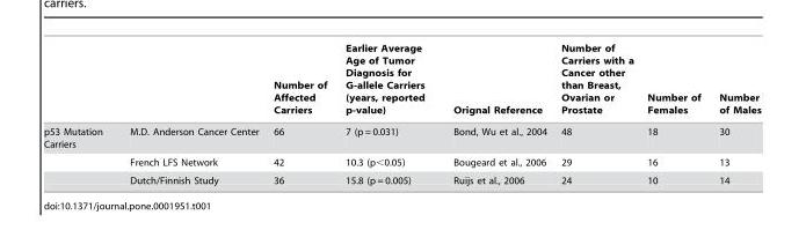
<table><thead><tr><td></td><td></td><td>Number of Affected Carriers</td><td>Earlier Average Age of Tumor Diagnosis for G-allele Carriers (years, reported p-value)</td><td>Orignal Reference</td><td>Number of Carriers with a Cancer other than Breast, Ovarian or Prostate</td><td>Number of Females</td><td>Number of Males</td></tr></thead><tbody><tr><td rowspan="3">p53 Mutation Carriers</td><td>M.D. Anderson Cancer Center</td><td>66</td><td>7 (p = 0.031)</td><td>Bond, Wu et al., 2004</td><td>48</td><td>18</td><td>30</td></tr><tr><td>French LFS Network</td><td>42</td><td>10.3 (p&lt;0.05)</td><td>Bougeard et al., 2006</td><td>29</td><td>16</td><td>13</td></tr><tr><td>Dutch/Finnish Study</td><td>36</td><td>15.8 (p = 0.005)</td><td>Ruijs et al., 2006</td><td>24</td><td>10</td><td>14</td></tr></tbody></table>